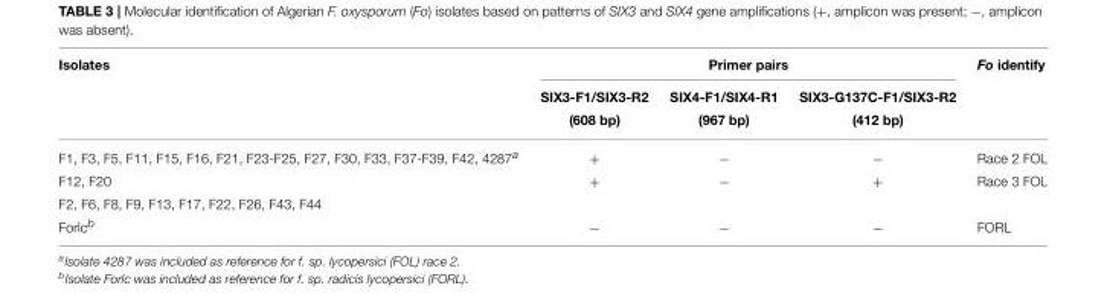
<table><thead><tr><td rowspan="3">Isolates</td><td colspan="3">Primer pairs</td><td rowspan="3">Fo identify</td></tr><tr><td rowspan="2">SIX3-F1/SIX3-R2 (608 bp)</td><td rowspan="2">SIX4-F1/SIX4-R1 (967 bp)</td><td rowspan="2">SIX3-G137C-F1/SIX3-R2 (412 bp)</td></tr><tr></tr></thead><tbody><tr><td>F1, F3, F5, F11, F15, F16, F21, F23-F25, F27, F30, F33, F37-F39, F42, 4287<sup>a</sup></td><td>+</td><td>−</td><td>−</td><td>Race 2 FOL</td></tr><tr><td>F12, F20</td><td>+</td><td>−</td><td>+</td><td>Race 3 FOL</td></tr><tr><td colspan="5">F2, F6, F8, F9, F13, F17, F22, F26, F43, F44</td></tr><tr><td>Forlc<sup>b</sup></td><td>−</td><td>−</td><td>−</td><td>FORL</td></tr></tbody></table>